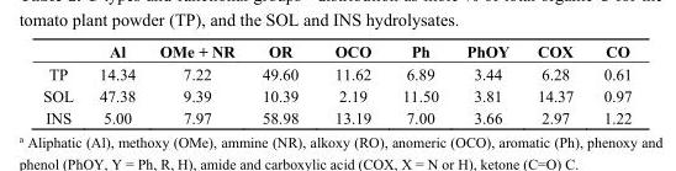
<table><thead><tr><td></td><td>Al</td><td>OMe + NR</td><td>OR</td><td>OCO</td><td>Ph</td><td>PhOY</td><td>COX</td><td>CO</td></tr></thead><tbody><tr><td>TP</td><td>14.34</td><td>7.22</td><td>49.60</td><td>11.62</td><td>6.89</td><td>3.44</td><td>6.28</td><td>0.61</td></tr><tr><td>SOL</td><td>47.38</td><td>9.39</td><td>10.39</td><td>2.19</td><td>11.50</td><td>3.81</td><td>14.37</td><td>0.97</td></tr><tr><td>INS</td><td>5.00</td><td>7.97</td><td>58.98</td><td>13.19</td><td>7.00</td><td>3.66</td><td>2.97</td><td>1.22</td></tr></tbody></table>